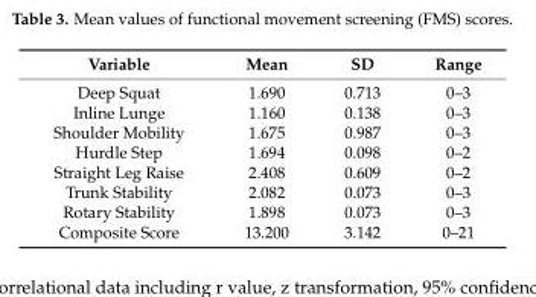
<table><thead><tr><td>Variable</td><td>Mean</td><td>SD</td><td>Range</td></tr></thead><tbody><tr><td>Deep Squat</td><td>1.690</td><td>0.713</td><td>0–3</td></tr><tr><td>Inline Lunge</td><td>1.160</td><td>0.138</td><td>0–3</td></tr><tr><td>Shoulder Mobility</td><td>1.675</td><td>0.987</td><td>0–3</td></tr><tr><td>Hurdle Step</td><td>1.694</td><td>0.098</td><td>0–2</td></tr><tr><td>Straight Leg Raise</td><td>2.408</td><td>0.609</td><td>0–2</td></tr><tr><td>Trunk Stability</td><td>2.082</td><td>0.073</td><td>0–3</td></tr><tr><td>Rotary Stability</td><td>1.898</td><td>0.073</td><td>0–3</td></tr><tr><td>Composite Score</td><td>13.200</td><td>3.142</td><td>0–21</td></tr></tbody></table>